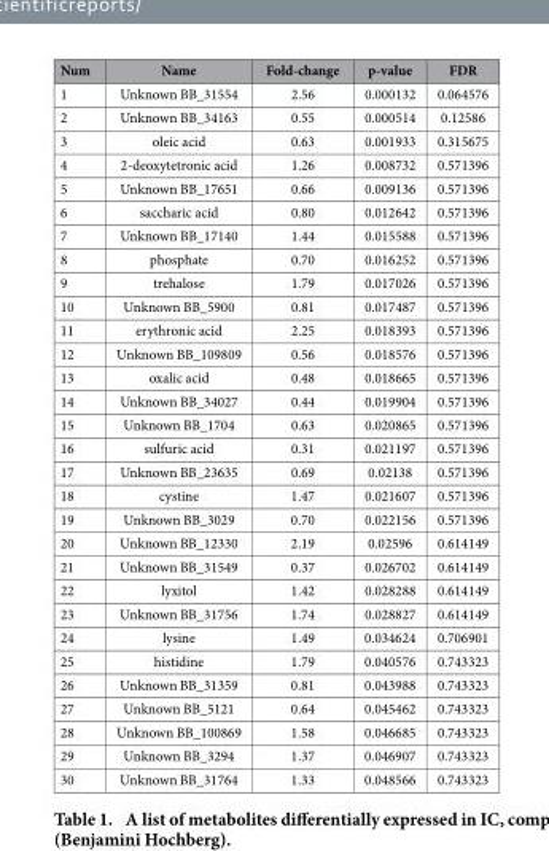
<table><thead><tr><td>Num</td><td>Name</td><td>Fold-change</td><td>p-value</td><td>FDR</td></tr></thead><tbody><tr><td>1</td><td>Unknown BB_31554</td><td>2.56</td><td>0.000132</td><td>0.064576</td></tr><tr><td>2</td><td>Unknown BB_34163</td><td>0.55</td><td>0.000514</td><td>0.12586</td></tr><tr><td>3</td><td>oleic acid</td><td>0.63</td><td>0.001933</td><td>0.315675</td></tr><tr><td>4</td><td>2-deoxytetronic acid</td><td>1.26</td><td>0.008732</td><td>0.571396</td></tr><tr><td>5</td><td>Unknown BB_17651</td><td>0.66</td><td>0.009136</td><td>0.571396</td></tr><tr><td>6</td><td>saccharic acid</td><td>0.80</td><td>0.012642</td><td>0.571396</td></tr><tr><td>7</td><td>Unknown BB_17140</td><td>1.44</td><td>0.015588</td><td>0.571396</td></tr><tr><td>8</td><td>phosphate</td><td>0.70</td><td>0.016252</td><td>0.571396</td></tr><tr><td>9</td><td>trehalose</td><td>1.79</td><td>0.017026</td><td>0.571396</td></tr><tr><td>10</td><td>Unknown BB_5900</td><td>0.81</td><td>0.017487</td><td>0.571396</td></tr><tr><td>11</td><td>erythronic acid</td><td>2.25</td><td>0.018393</td><td>0.571396</td></tr><tr><td>12</td><td>Unknown BB_109809</td><td>0.56</td><td>0.018576</td><td>0.571396</td></tr><tr><td>13</td><td>oxalic acid</td><td>0.48</td><td>0.018665</td><td>0.571396</td></tr><tr><td>14</td><td>Unknown BB_34027</td><td>0.44</td><td>0.019904</td><td>0.571396</td></tr><tr><td>15</td><td>Unknown BB_1704</td><td>0.63</td><td>0.020865</td><td>0.571396</td></tr><tr><td>16</td><td>sulfuric acid</td><td>0.31</td><td>0.021197</td><td>0.571396</td></tr><tr><td>17</td><td>Unknown BB_23635</td><td>0.69</td><td>0.02138</td><td>0.571396</td></tr><tr><td>18</td><td>cystine</td><td>1.47</td><td>0.021607</td><td>0.571396</td></tr><tr><td>19</td><td>Unknown BB_3029</td><td>0.70</td><td>0.022156</td><td>0.571396</td></tr><tr><td>20</td><td>Unknown BB_12330</td><td>2.19</td><td>0.02596</td><td>0.614149</td></tr><tr><td>21</td><td>Unknown BB_31549</td><td>0.37</td><td>0.026702</td><td>0.614149</td></tr><tr><td>22</td><td>lyxitol</td><td>1.42</td><td>0.028288</td><td>0.614149</td></tr><tr><td>23</td><td>Unknown BB_31756</td><td>1.74</td><td>0.028827</td><td>0.614149</td></tr><tr><td>24</td><td>lysine</td><td>1.49</td><td>0.034624</td><td>0.706901</td></tr><tr><td>25</td><td>histidine</td><td>1.79</td><td>0.040576</td><td>0.743323</td></tr><tr><td>26</td><td>Unknown BB_31359</td><td>0.81</td><td>0.043988</td><td>0.743323</td></tr><tr><td>27</td><td>Unknown BB_5121</td><td>0.64</td><td>0.045462</td><td>0.743323</td></tr><tr><td>28</td><td>Unknown BB_100869</td><td>1.58</td><td>0.046685</td><td>0.743323</td></tr><tr><td>29</td><td>Unknown BB_3294</td><td>1.37</td><td>0.046907</td><td>0.743323</td></tr><tr><td>30</td><td>Unknown BB_31764</td><td>1.33</td><td>0.048566</td><td>0.743323</td></tr></tbody></table>